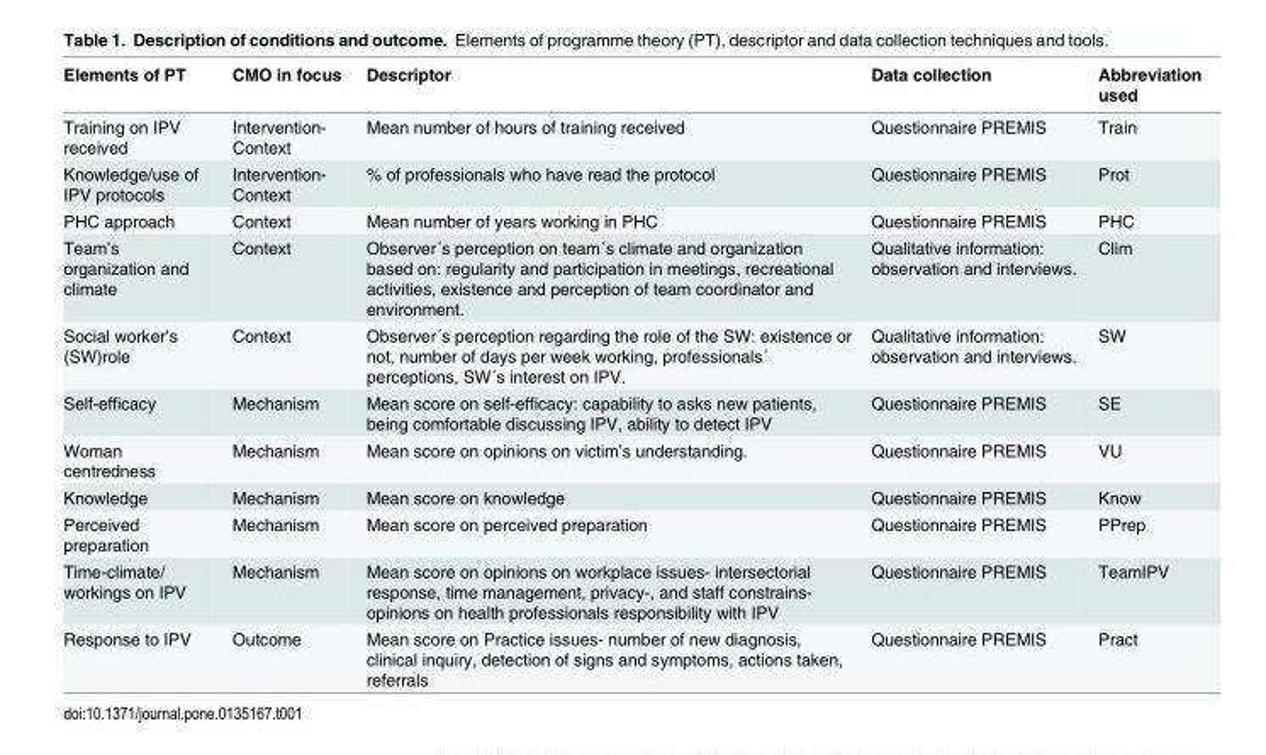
<table><thead><tr><td>Elements of PT</td><td>CMO in focus</td><td>Descriptor</td><td>Data collection</td><td>Abbreviation used</td></tr></thead><tbody><tr><td>Training on IPV received</td><td>Intervention- Context</td><td>Mean number of hours of training received</td><td>Questionnaire PREMIS</td><td>Train</td></tr><tr><td>Knowledge/use of IPV protocols</td><td>Intervention- Context</td><td>% of professionals who have read the protocol</td><td>Questionnaire PREMIS</td><td>Prot</td></tr><tr><td>PHC approach</td><td>Context</td><td>Mean number of years working in PHC</td><td>Questionnaire PREMIS</td><td>PHC</td></tr><tr><td>Team’s organization and climate</td><td>Context</td><td>Observer´s perception on team´s climate and organization based on: regularity and participation in meetings, recreational activities, existence and perception of team coordinator and environment.</td><td>Qualitative information: observation and interviews.</td><td>Clim</td></tr><tr><td>Social worker’s (SW)role</td><td>Context</td><td>Observer´s perception regarding the role of the SW: existence or not, number of days per week working, professionals´ perceptions, SW´s interest on IPV.</td><td>Qualitative information: observation and interviews.</td><td>SW</td></tr><tr><td>Self-efficacy</td><td>Mechanism</td><td>Mean score on self-efficacy: capability to asks new patients, being comfortable discussing IPV, ability to detect IPV</td><td>Questionnaire PREMIS</td><td>SE</td></tr><tr><td>Woman centredness</td><td>Mechanism</td><td>Mean score on opinions on victim’s understanding.</td><td>Questionnaire PREMIS</td><td>VU</td></tr><tr><td>Knowledge</td><td>Mechanism</td><td>Mean score on knowledge</td><td>Questionnaire PREMIS</td><td>Know</td></tr><tr><td>Perceived preparation</td><td>Mechanism</td><td>Mean score on perceived preparation</td><td>Questionnaire PREMIS</td><td>PPrep</td></tr><tr><td>Time-climate/ workings on IPV</td><td>Mechanism</td><td>Mean score on opinions on workplace issues- intersectorial response, time management, privacy-, and staff constrains- opinions on health professionals responsibility with IPV</td><td>Questionnaire PREMIS</td><td>TeamIPV</td></tr><tr><td>Response to IPV</td><td>Outcome</td><td>Mean score on Practice issues- number of new diagnosis, clinical inquiry, detection of signs and symptoms, actions taken, referrals</td><td>Questionnaire PREMIS</td><td>Pract</td></tr></tbody></table>